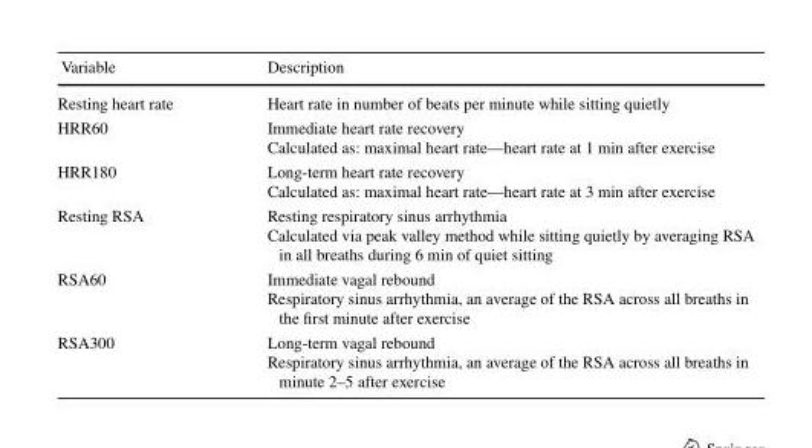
<table><thead><tr><td>Variable</td><td>Description</td></tr></thead><tbody><tr><td>Resting heart rate</td><td>Heart rate in number of beats per minute while sitting quietly</td></tr><tr><td>HRR60</td><td>Immediate heart rate recovery Calculated as: maximal heart rate—heart rate at 1 min after exercise</td></tr><tr><td>HRR180</td><td>Long-term heart rate recovery Calculated as: maximal heart rate—heart rate at 3 min after exercise</td></tr><tr><td>Resting RSA</td><td>Resting respiratory sinus arrhythmia Calculated via peak valley method while sitting quietly by averaging RSA in all breaths during 6 min of quiet sitting</td></tr><tr><td>RSA60</td><td>Immediate vagal rebound Respiratory sinus arrhythmia, an average of the RSA across all breaths in the first minute after exercise</td></tr><tr><td>RSA300</td><td>Long-term vagal rebound Respiratory sinus arrhythmia, an average of the RSA across all breaths in minute 2–5 after exercise</td></tr></tbody></table>